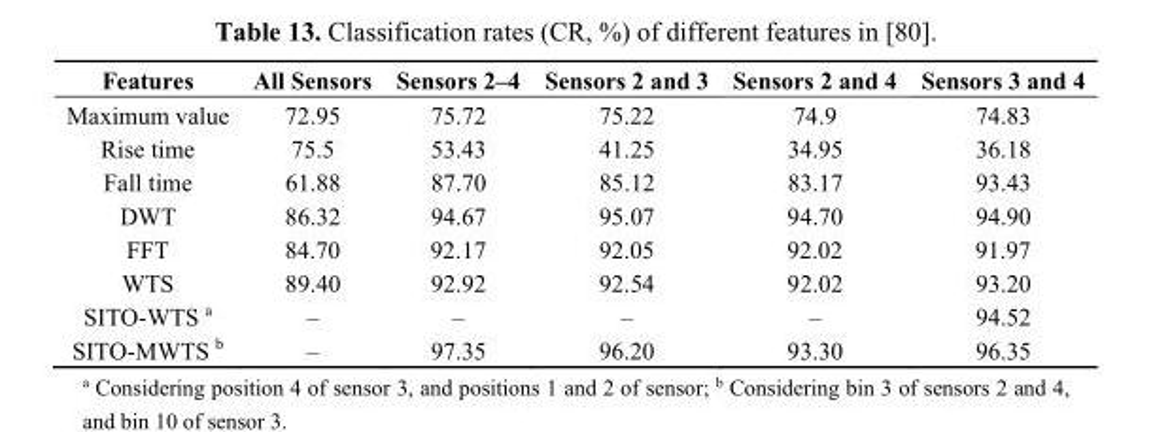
<table><thead><tr><td>Features</td><td>All Sensors</td><td>Sensors 2–4</td><td>Sensors 2 and 3</td><td>Sensors 2 and 4</td><td>Sensors 3 and 4</td></tr></thead><tbody><tr><td>Maximum value</td><td>72.95</td><td>75.72</td><td>75.22</td><td>74.9</td><td>74.83</td></tr><tr><td>Rise time</td><td>75.5</td><td>53.43</td><td>41.25</td><td>34.95</td><td>36.18</td></tr><tr><td>Fall time</td><td>61.88</td><td>87.70</td><td>85.12</td><td>83.17</td><td>93.43</td></tr><tr><td>DWT</td><td>86.32</td><td>94.67</td><td>95.07</td><td>94.70</td><td>94.90</td></tr><tr><td>FFT</td><td>84.70</td><td>92.17</td><td>92.05</td><td>92.02</td><td>91.97</td></tr><tr><td>WTS</td><td>89.40</td><td>92.92</td><td>92.54</td><td>92.02</td><td>93.20</td></tr><tr><td>SITO-WTS <sup>a</sup></td><td>–</td><td>–</td><td>–</td><td>–</td><td>94.52</td></tr><tr><td>SITO-MWTS <sup>b</sup></td><td>–</td><td>97.35</td><td>96.20</td><td>93.30</td><td>96.35</td></tr></tbody></table>